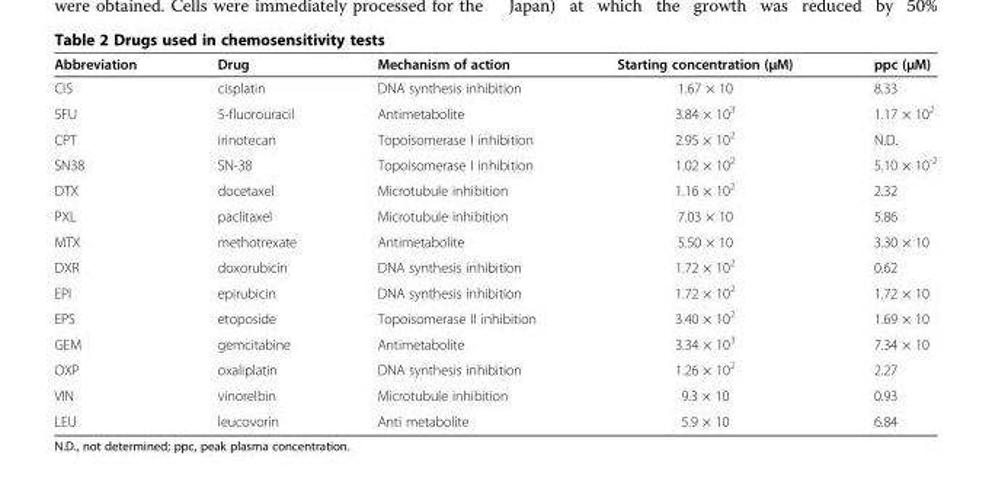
<table><thead><tr><td>Abbreviation</td><td>Drug</td><td>Mechanism of action</td><td>Starting concentration (μM)</td><td>ppc (μM)</td></tr></thead><tbody><tr><td>CIS</td><td>cisplatin</td><td>DNA synthesis inhibition</td><td>1.67 × 10</td><td>8.33</td></tr><tr><td>5FU</td><td>5-fluorouracil</td><td>Antimetabolite</td><td>3.84 × 10<sup>3</sup></td><td>1.17 × 10<sup>2</sup></td></tr><tr><td>CPT</td><td>irinotecan</td><td>Topoisomerase I inhibition</td><td>2.95 × 10<sup>2</sup></td><td>N.D.</td></tr><tr><td>SN38</td><td>SN-38</td><td>Topoisomerase I inhibition</td><td>1.02 × 10<sup>2</sup></td><td>5.10 × 10<sup>-2</sup></td></tr><tr><td>DTX</td><td>docetaxel</td><td>Microtubule inhibition</td><td>1.16 × 10<sup>2</sup></td><td>2.32</td></tr><tr><td>PXL</td><td>paclitaxel</td><td>Microtubule inhibition</td><td>7.03 × 10</td><td>5.86</td></tr><tr><td>MTX</td><td>methotrexate</td><td>Antimetabolite</td><td>5.50 × 10</td><td>3.30 × 10</td></tr><tr><td>DXR</td><td>doxorubicin</td><td>DNA synthesis inhibition</td><td>1.72 × 10<sup>2</sup></td><td>0.62</td></tr><tr><td>EPI</td><td>epirubicin</td><td>DNA synthesis inhibition</td><td>1.72 × 10<sup>2</sup></td><td>1.72 × 10</td></tr><tr><td>EPS</td><td>etoposide</td><td>Topoisomerase II inhibition</td><td>3.40 × 10<sup>2</sup></td><td>1.69 × 10</td></tr><tr><td>GEM</td><td>gemcitabine</td><td>Antimetabolite</td><td>3.34 × 10<sup>3</sup></td><td>7.34 × 10</td></tr><tr><td>OXP</td><td>oxaliplatin</td><td>DNA synthesis inhibition</td><td>1.26 × 10<sup>2</sup></td><td>2.27</td></tr><tr><td>VIN</td><td>vinorelbin</td><td>Microtubule inhibition</td><td>9.3 × 10</td><td>0.93</td></tr><tr><td>LEU</td><td>leucovorin</td><td>Anti metabolite</td><td>5.9 × 10</td><td>6.84</td></tr></tbody></table>